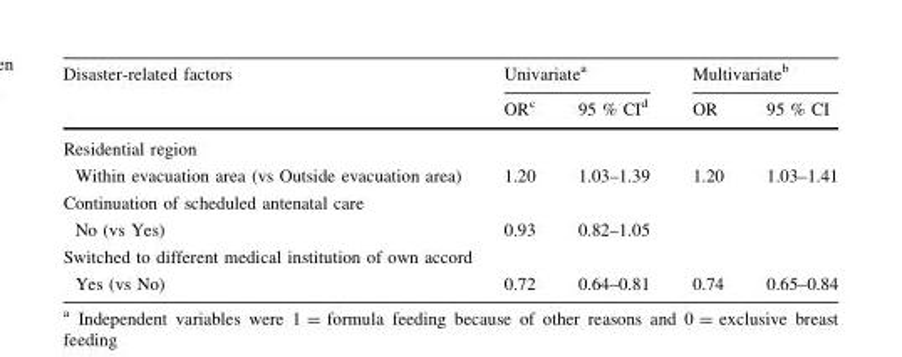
<table><thead><tr><td rowspan="2">Disaster-related factors</td><td colspan="2">Univariate<sup>a</sup></td><td colspan="2">Multivariate<sup>b</sup></td></tr><tr><td>OR<sup>c</sup></td><td>95 % CI<sup>d</sup></td><td>OR</td><td>95 % CI</td></tr></thead><tbody><tr><td colspan="5">Residential region</td></tr><tr><td>Within evacuation area (vs Outside evacuation area)</td><td>1.20</td><td>1.03–1.39</td><td>1.20</td><td>1.03–1.41</td></tr><tr><td colspan="5">Continuation of scheduled antenatal care</td></tr><tr><td>No (vs Yes)</td><td>0.93</td><td>0.82–1.05</td><td></td><td></td></tr><tr><td colspan="5">Switched to different medical institution of own accord</td></tr><tr><td>Yes (vs No)</td><td>0.72</td><td>0.64–0.81</td><td>0.74</td><td>0.65–0.84</td></tr></tbody></table>